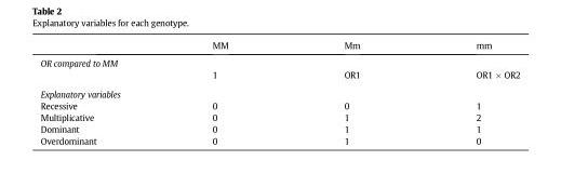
<table><thead><tr><td></td><td>MM</td><td>Mm</td><td>mm</td></tr></thead><tbody><tr><td colspan="4">OR compared to MM</td></tr><tr><td></td><td>1</td><td>OR1</td><td>OR1 × OR2</td></tr><tr><td colspan="4">Explanatory variables</td></tr><tr><td>Recessive</td><td>0</td><td>0</td><td>1</td></tr><tr><td>Multiplicative</td><td>0</td><td>1</td><td>2</td></tr><tr><td>Dominant</td><td>0</td><td>1</td><td>1</td></tr><tr><td>Overdominant</td><td>0</td><td>1</td><td>0</td></tr></tbody></table>